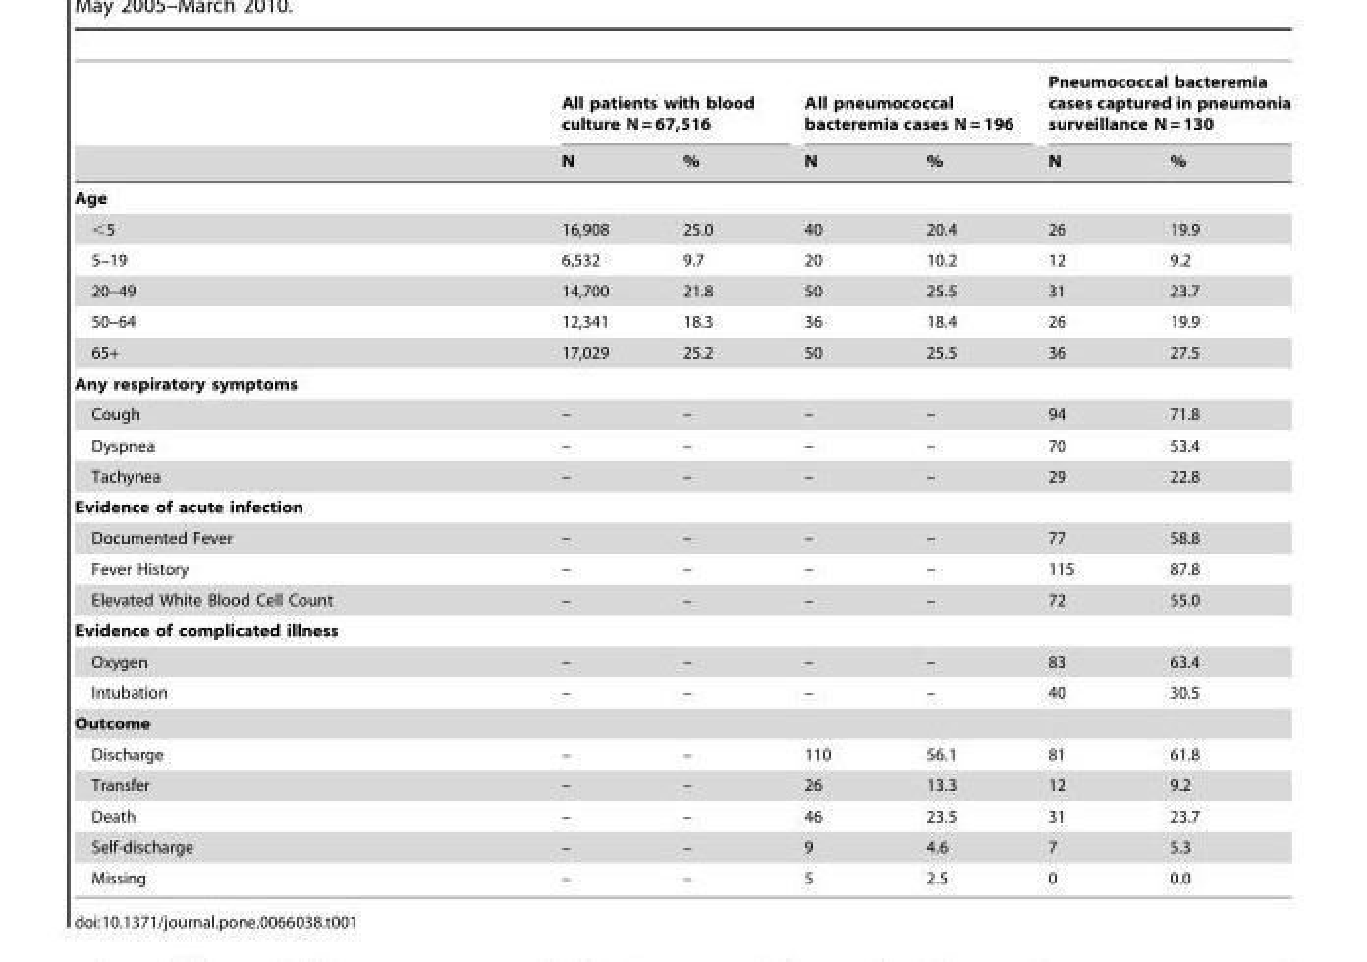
<table><thead><tr><td rowspan="2"></td><td colspan="2">All patients with blood culture N = 67,516</td><td colspan="2">All pneumococcal bacteremia cases N = 196</td><td colspan="2">Pneumococcal bacteremia cases captured in pneumonia surveillance N = 130</td></tr><tr><td>N</td><td>%</td><td>N</td><td>%</td><td>N</td><td>%</td></tr></thead><tbody><tr><td colspan="7">Age</td></tr><tr><td>&lt;5</td><td>16,908</td><td>25.0</td><td>40</td><td>20.4</td><td>26</td><td>19.9</td></tr><tr><td>5–19</td><td>6,532</td><td>9.7</td><td>20</td><td>10.2</td><td>12</td><td>9.2</td></tr><tr><td>20–49</td><td>14,700</td><td>21.8</td><td>50</td><td>25.5</td><td>31</td><td>23.7</td></tr><tr><td>50–64</td><td>12,341</td><td>18.3</td><td>36</td><td>18.4</td><td>26</td><td>19.9</td></tr><tr><td>65+</td><td>17,029</td><td>25.2</td><td>50</td><td>25.5</td><td>36</td><td>27.5</td></tr><tr><td colspan="7">Any respiratory symptoms</td></tr><tr><td>Cough</td><td>–</td><td>–</td><td>–</td><td>–</td><td>94</td><td>71.8</td></tr><tr><td>Dyspnea</td><td>–</td><td>–</td><td>–</td><td>–</td><td>70</td><td>53.4</td></tr><tr><td>Tachynea</td><td>–</td><td>–</td><td>–</td><td>–</td><td>29</td><td>22.8</td></tr><tr><td colspan="7">Evidence of acute infection</td></tr><tr><td>Documented Fever</td><td>–</td><td>–</td><td>–</td><td>–</td><td>77</td><td>58.8</td></tr><tr><td>Fever History</td><td>–</td><td>–</td><td>–</td><td>–</td><td>115</td><td>87.8</td></tr><tr><td>Elevated White Blood Cell Count</td><td>–</td><td>–</td><td>–</td><td>–</td><td>72</td><td>55.0</td></tr><tr><td colspan="7">Evidence of complicated illness</td></tr><tr><td>Oxygen</td><td>–</td><td>–</td><td>–</td><td>–</td><td>83</td><td>63.4</td></tr><tr><td>Intubation</td><td>–</td><td>–</td><td>–</td><td>–</td><td>40</td><td>30.5</td></tr><tr><td colspan="7">Outcome</td></tr><tr><td>Discharge</td><td>–</td><td>–</td><td>110</td><td>56.1</td><td>81</td><td>61.8</td></tr><tr><td>Transfer</td><td>–</td><td>–</td><td>26</td><td>13.3</td><td>12</td><td>9.2</td></tr><tr><td>Death</td><td>–</td><td>–</td><td>46</td><td>23.5</td><td>31</td><td>23.7</td></tr><tr><td>Self-discharge</td><td>–</td><td>–</td><td>9</td><td>4.6</td><td>7</td><td>5.3</td></tr><tr><td>Missing</td><td>–</td><td>–</td><td>5</td><td>2.5</td><td>0</td><td>0.0</td></tr></tbody></table>